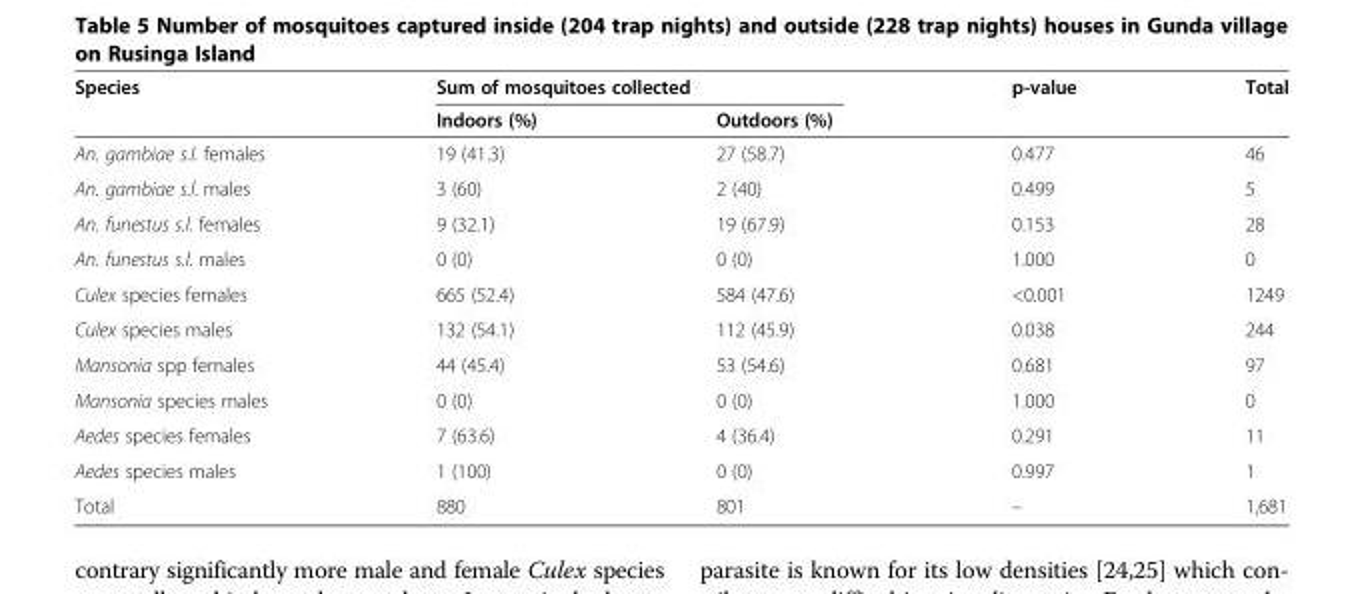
<table><thead><tr><td rowspan="2">Species</td><td colspan="2">Sum of mosquitoes collected</td><td rowspan="2">p-value</td><td rowspan="2">Total</td></tr><tr><td>Indoors (%)</td><td>Outdoors (%)</td></tr></thead><tbody><tr><td>An. gambiae s.l. females</td><td>19 (41.3)</td><td>27 (58.7)</td><td>0.477</td><td>46</td></tr><tr><td>An. gambiae s.l. males</td><td>3 (60)</td><td>2 (40)</td><td>0.499</td><td>5</td></tr><tr><td>An. funestus s.l. females</td><td>9 (32.1)</td><td>19 (67.9)</td><td>0.153</td><td>28</td></tr><tr><td>An. funestus s.l. males</td><td>0 (0)</td><td>0 (0)</td><td>1.000</td><td>0</td></tr><tr><td>Culex species females</td><td>665 (52.4)</td><td>584 (47.6)</td><td>&lt;0.001</td><td>1249</td></tr><tr><td>Culex species males</td><td>132 (54.1)</td><td>112 (45.9)</td><td>0.038</td><td>244</td></tr><tr><td>Mansonia spp females</td><td>44 (45.4)</td><td>53 (54.6)</td><td>0.681</td><td>97</td></tr><tr><td>Mansonia species males</td><td>0 (0)</td><td>0 (0)</td><td>1.000</td><td>0</td></tr><tr><td>Aedes species females</td><td>7 (63.6)</td><td>4 (36.4)</td><td>0.291</td><td>11</td></tr><tr><td>Aedes species males</td><td>1 (100)</td><td>0 (0)</td><td>0.997</td><td>1</td></tr><tr><td>Total</td><td>880</td><td>801</td><td>–</td><td>1,681</td></tr></tbody></table>